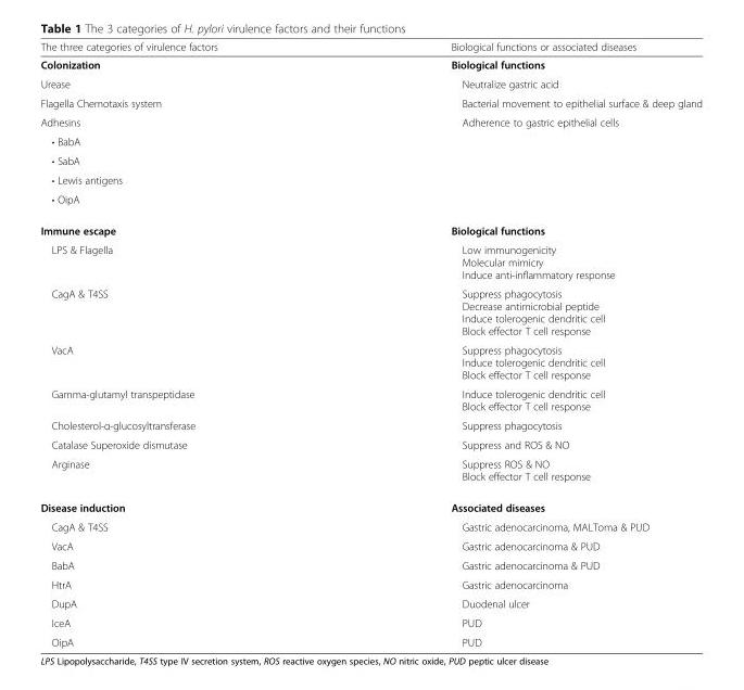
<table><thead><tr><td>The three categories of virulence factors</td><td>Biological functions or associated diseases</td></tr></thead><tbody><tr><td>Colonization</td><td>Biological functions</td></tr><tr><td>Urease</td><td>Neutralize gastric acid</td></tr><tr><td>Flagella Chemotaxis system</td><td>Bacterial movement to epithelial surface &amp; deep gland</td></tr><tr><td>Adhesins</td><td>Adherence to gastric epithelial cells</td></tr><tr><td colspan="2">• BabA</td></tr><tr><td colspan="2">• SabA</td></tr><tr><td colspan="2">• Lewis antigens</td></tr><tr><td colspan="2">• OipA</td></tr><tr><td>Immune escape</td><td>Biological functions</td></tr><tr><td>LPS &amp; Flagella</td><td>Low immunogenicity Molecular mimicry Induce anti-inflammatory response</td></tr><tr><td>CagA &amp; T4SS</td><td>Suppress phagocytosis Decrease antimicrobial peptide Induce tolerogenic dendritic cell Block effector T cell response</td></tr><tr><td>VacA</td><td>Suppress phagocytosis Induce tolerogenic dendritic cell Block effector T cell response</td></tr><tr><td>Gamma-glutamyl transpeptidase</td><td>Induce tolerogenic dendritic cell Block effector T cell response</td></tr><tr><td>Cholesterol-α-glucosyltransferase</td><td>Suppress phagocytosis</td></tr><tr><td>Catalase Superoxide dismutase</td><td>Suppress and ROS &amp; NO</td></tr><tr><td>Arginase</td><td>Suppress ROS &amp; NO Block effector T cell response</td></tr><tr><td>Disease induction</td><td>Associated diseases</td></tr><tr><td>CagA &amp; T4SS</td><td>Gastric adenocarcinoma, MALToma &amp; PUD</td></tr><tr><td>VacA</td><td>Gastric adenocarcinoma &amp; PUD</td></tr><tr><td>BabA</td><td>Gastric adenocarcinoma &amp; PUD</td></tr><tr><td>HtrA</td><td>Gastric adenocarcinoma</td></tr><tr><td>DupA</td><td>Duodenal ulcer</td></tr><tr><td>IceA</td><td>PUD</td></tr><tr><td>OipA</td><td>PUD</td></tr></tbody></table>